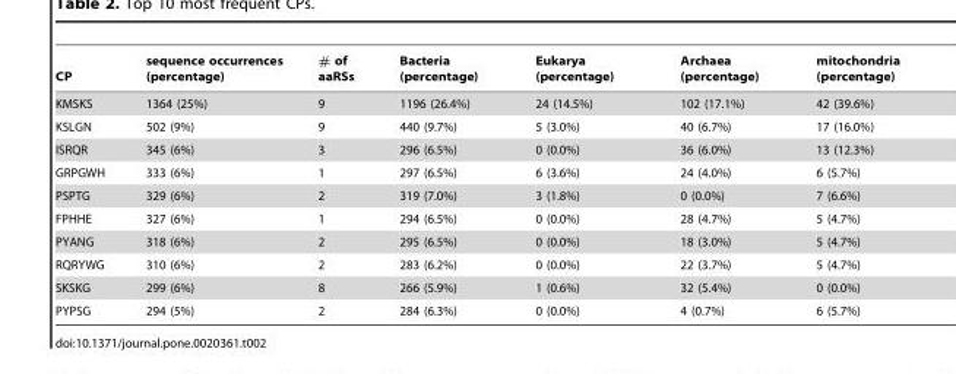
<table><thead><tr><td>CP</td><td>sequence occurrences (percentage)</td><td># of aaRSs</td><td>Bacteria (percentage)</td><td>Eukarya (percentage)</td><td>Archaea (percentage)</td><td>mitochondria (percentage)</td></tr></thead><tbody><tr><td>KMSKS</td><td>1364 (25%)</td><td>9</td><td>1196 (26.4%)</td><td>24 (14.5%)</td><td>102 (17.1%)</td><td>42 (39.6%)</td></tr><tr><td>KSLGN</td><td>502 (9%)</td><td>9</td><td>440 (9.7%)</td><td>5 (3.0%)</td><td>40 (6.7%)</td><td>17 (16.0%)</td></tr><tr><td>ISRQR</td><td>345 (6%)</td><td>3</td><td>296 (6.5%)</td><td>0 (0.0%)</td><td>36 (6.0%)</td><td>13 (12.3%)</td></tr><tr><td>GRPGWH</td><td>333 (6%)</td><td>1</td><td>297 (6.5%)</td><td>6 (3.6%)</td><td>24 (4.0%)</td><td>6 (5.7%)</td></tr><tr><td>PSPTG</td><td>329 (6%)</td><td>2</td><td>319 (7.0%)</td><td>3 (1.8%)</td><td>0 (0.0%)</td><td>7 (6.6%)</td></tr><tr><td>FPHHE</td><td>327 (6%)</td><td>1</td><td>294 (6.5%)</td><td>0 (0.0%)</td><td>28 (4.7%)</td><td>5 (4.7%)</td></tr><tr><td>PYANG</td><td>318 (6%)</td><td>2</td><td>295 (6.5%)</td><td>0 (0.0%)</td><td>18 (3.0%)</td><td>5 (4.7%)</td></tr><tr><td>RQRYWG</td><td>310 (6%)</td><td>2</td><td>283 (6.2%)</td><td>0 (0.0%)</td><td>22 (3.7%)</td><td>5 (4.7%)</td></tr><tr><td>SKSKG</td><td>299 (6%)</td><td>8</td><td>266 (5.9%)</td><td>1 (0.6%)</td><td>32 (5.4%)</td><td>0 (0.0%)</td></tr><tr><td>PYPSG</td><td>294 (5%)</td><td>2</td><td>284 (6.3%)</td><td>0 (0.0%)</td><td>4 (0.7%)</td><td>6 (5.7%)</td></tr></tbody></table>